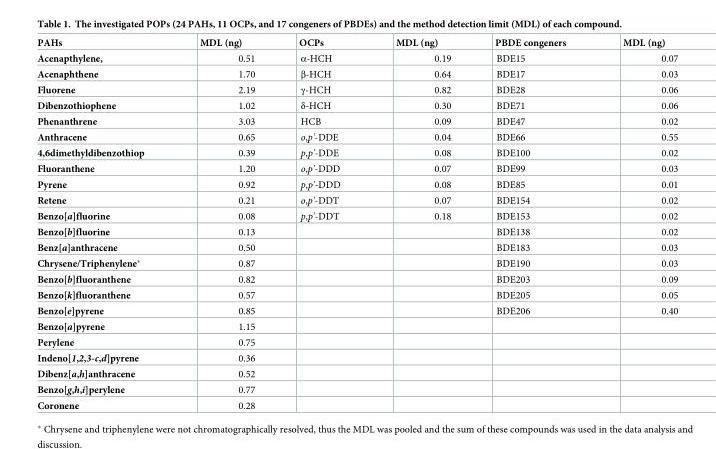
<table><thead><tr><td>PAHs</td><td>MDL (ng)</td><td>OCPs</td><td>MDL (ng)</td><td>PBDE congeners</td><td>MDL (ng)</td></tr></thead><tbody><tr><td>Acenapthylene,</td><td>0.51</td><td>α-HCH</td><td>0.19</td><td>BDE15</td><td>0.07</td></tr><tr><td>Acenaphthene</td><td>1.70</td><td>β-HCH</td><td>0.64</td><td>BDE17</td><td>0.03</td></tr><tr><td>Fluorene</td><td>2.19</td><td>γ-HCH</td><td>0.82</td><td>BDE28</td><td>0.06</td></tr><tr><td>Dibenzothiophene</td><td>1.02</td><td>δ-HCH</td><td>0.30</td><td>BDE71</td><td>0.06</td></tr><tr><td>Phenanthrene</td><td>3.03</td><td>HCB</td><td>0.09</td><td>BDE47</td><td>0.02</td></tr><tr><td>Anthracene</td><td>0.65</td><td>o,p&#x27;-DDE</td><td>0.04</td><td>BDE66</td><td>0.55</td></tr><tr><td>4,6dimethyldibenzothiop</td><td>0.39</td><td>p,p&#x27;-DDE</td><td>0.08</td><td>BDE100</td><td>0.02</td></tr><tr><td>Fluoranthene</td><td>1.20</td><td>o,p&#x27;-DDD</td><td>0.07</td><td>BDE99</td><td>0.03</td></tr><tr><td>Pyrene</td><td>0.92</td><td>p,p&#x27;-DDD</td><td>0.08</td><td>BDE85</td><td>0.01</td></tr><tr><td>Retene</td><td>0.21</td><td>o,p&#x27;-DDT</td><td>0.07</td><td>BDE154</td><td>0.02</td></tr><tr><td>Benzo[a]fluorine</td><td>0.08</td><td>p,p&#x27;-DDT</td><td>0.18</td><td>BDE153</td><td>0.02</td></tr><tr><td>Benzo[b]fluorine</td><td>0.13</td><td></td><td></td><td>BDE138</td><td>0.02</td></tr><tr><td>Benz[a]anthracene</td><td>0.50</td><td></td><td></td><td>BDE183</td><td>0.03</td></tr><tr><td>Chrysene/Triphenylene*</td><td>0.87</td><td></td><td></td><td>BDE190</td><td>0.03</td></tr><tr><td>Benzo[b]fluoranthene</td><td>0.82</td><td></td><td></td><td>BDE203</td><td>0.09</td></tr><tr><td>Benzo[k]fluoranthene</td><td>0.57</td><td></td><td></td><td>BDE205</td><td>0.05</td></tr><tr><td>Benzo[e]pyrene</td><td>0.85</td><td></td><td></td><td>BDE206</td><td>0.40</td></tr><tr><td>Benzo[a]pyrene</td><td>1.15</td><td></td><td></td><td></td><td></td></tr><tr><td>Perylene</td><td>0.75</td><td></td><td></td><td></td><td></td></tr><tr><td>Indeno[1,2,3-c,d]pyrene</td><td>0.36</td><td></td><td></td><td></td><td></td></tr><tr><td>Dibenz[a,h]anthracene</td><td>0.52</td><td></td><td></td><td></td><td></td></tr><tr><td>Benzo[g,h,i]perylene</td><td>0.77</td><td></td><td></td><td></td><td></td></tr><tr><td>Coronene</td><td>0.28</td><td></td><td></td><td></td><td></td></tr></tbody></table>